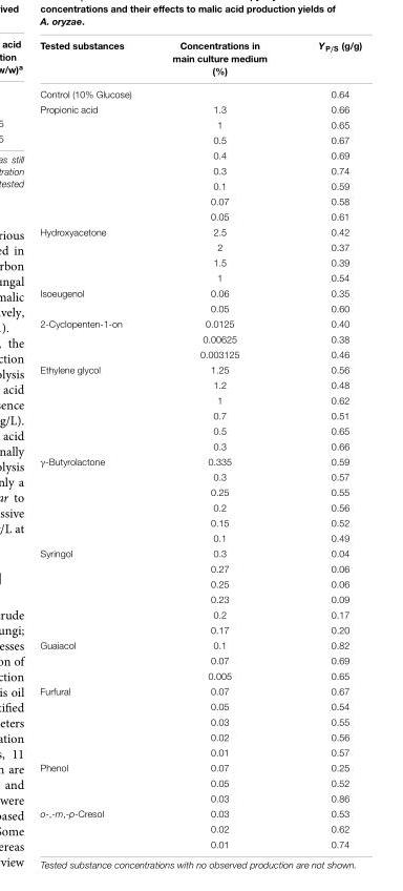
<table><thead><tr><td>Tested substances</td><td>Concentrations in main culture medium (%)</td><td>Y<sub>P/S</sub> (g/g)</td></tr></thead><tbody><tr><td>Control (10% Glucose)</td><td></td><td>0.64</td></tr><tr><td rowspan="8">Propionic acid</td><td>1.3</td><td>0.66</td></tr><tr><td>1</td><td>0.65</td></tr><tr><td>0.5</td><td>0.67</td></tr><tr><td>0.4</td><td>0.69</td></tr><tr><td>0.3</td><td>0.74</td></tr><tr><td>0.1</td><td>0.59</td></tr><tr><td>0.07</td><td>0.58</td></tr><tr><td>0.05</td><td>0.61</td></tr><tr><td rowspan="4">Hydroxyacetone</td><td>2.5</td><td>0.42</td></tr><tr><td>2</td><td>0.37</td></tr><tr><td>1.5</td><td>0.39</td></tr><tr><td>1</td><td>0.54</td></tr><tr><td rowspan="2">Isoeugenol</td><td>0.06</td><td>0.35</td></tr><tr><td>0.05</td><td>0.60</td></tr><tr><td rowspan="3">2-Cyclopenten-1-on</td><td>0.0125</td><td>0.40</td></tr><tr><td>0.00625</td><td>0.38</td></tr><tr><td>0.003125</td><td>0.46</td></tr><tr><td rowspan="6">Ethylene glycol</td><td>1.25</td><td>0.56</td></tr><tr><td>1.2</td><td>0.48</td></tr><tr><td>1</td><td>0.62</td></tr><tr><td>0.7</td><td>0.51</td></tr><tr><td>0.5</td><td>0.65</td></tr><tr><td>0.3</td><td>0.66</td></tr><tr><td rowspan="6">γ-Butyrolactone</td><td>0.335</td><td>0.59</td></tr><tr><td>0.3</td><td>0.57</td></tr><tr><td>0.25</td><td>0.55</td></tr><tr><td>0.2</td><td>0.56</td></tr><tr><td>0.15</td><td>0.52</td></tr><tr><td>0.1</td><td>0.49</td></tr><tr><td rowspan="6">Syringol</td><td>0.3</td><td>0.04</td></tr><tr><td>0.27</td><td>0.06</td></tr><tr><td>0.25</td><td>0.06</td></tr><tr><td>0.23</td><td>0.09</td></tr><tr><td>0.2</td><td>0.17</td></tr><tr><td>0.17</td><td>0.20</td></tr><tr><td rowspan="3">Guaiacol</td><td>0.1</td><td>0.82</td></tr><tr><td>0.07</td><td>0.69</td></tr><tr><td>0.005</td><td>0.65</td></tr><tr><td rowspan="5">Furfural</td><td>0.07</td><td>0.67</td></tr><tr><td>0.05</td><td>0.54</td></tr><tr><td>0.03</td><td>0.55</td></tr><tr><td>0.02</td><td>0.56</td></tr><tr><td>0.01</td><td>0.57</td></tr><tr><td rowspan="3">Phenol</td><td>0.07</td><td>0.25</td></tr><tr><td>0.05</td><td>0.52</td></tr><tr><td>0.03</td><td>0.86</td></tr><tr><td rowspan="3">o-,-m,-p-Cresol</td><td>0.03</td><td>0.53</td></tr><tr><td>0.02</td><td>0.62</td></tr><tr><td>0.01</td><td>0.74</td></tr></tbody></table>